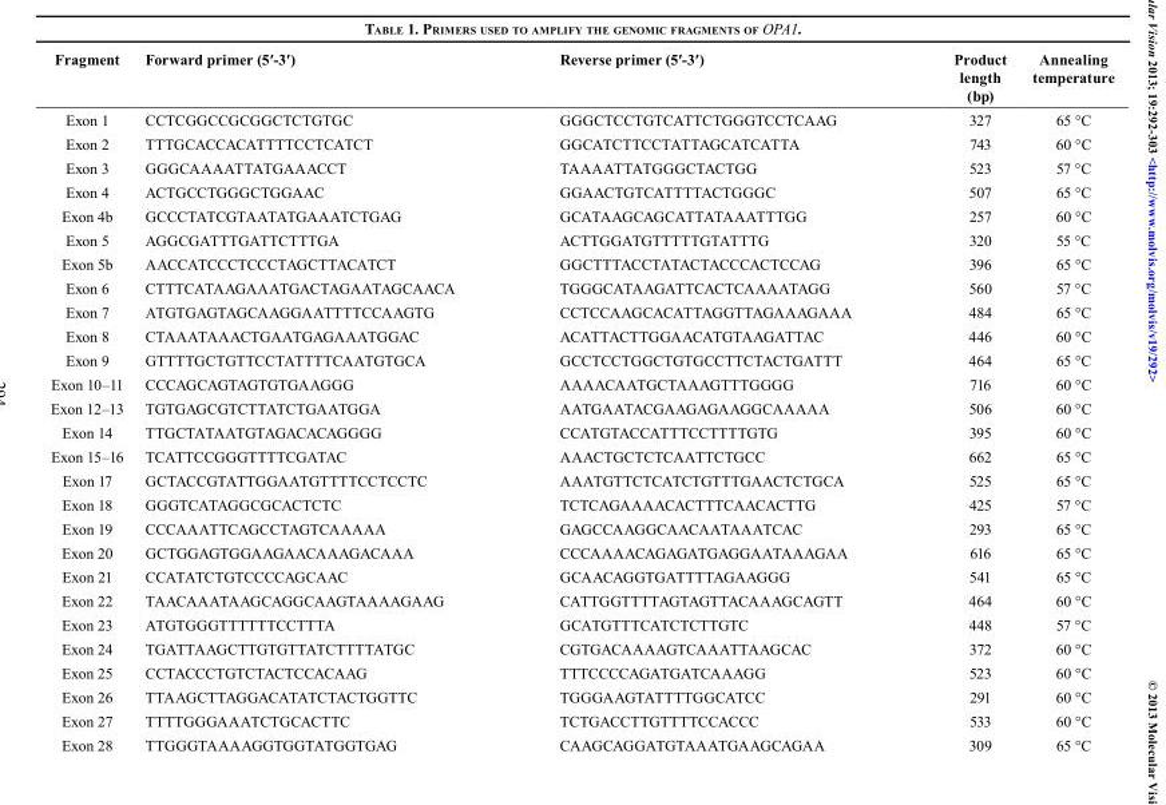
<table><thead><tr><td>Fragment</td><td>Forward primer (5′-3′)</td><td>Reverse primer (5′-3′)</td><td>Product length (bp)</td><td>Annealing temperature</td></tr></thead><tbody><tr><td>Exon 1</td><td>CCTCGGCCGCGGCTCTGTGC</td><td>GGGCTCCTGTCATTCTGGGTCCTCAAG</td><td>327</td><td>65 °C</td></tr><tr><td>Exon 2</td><td>TTTGCACCACATTTTCCTCATCT</td><td>GGCATCTTCCTATTAGCATCATTA</td><td>743</td><td>60 °C</td></tr><tr><td>Exon 3</td><td>GGGCAAAATTATGAAACCT</td><td>TAAAATTATGGGCTACTGG</td><td>523</td><td>57 °C</td></tr><tr><td>Exon 4</td><td>ACTGCCTGGGCTGGAAC</td><td>GGAACTGTCATTTTACTGGGC</td><td>507</td><td>65 °C</td></tr><tr><td>Exon 4b</td><td>GCCCTATCGTAATATGAAATCTGAG</td><td>GCATAAGCAGCATTATAAATTTGG</td><td>257</td><td>60 °C</td></tr><tr><td>Exon 5</td><td>AGGCGATTTGATTCTTTGA</td><td>ACTTGGATGTTTTTGTATTTG</td><td>320</td><td>55 °C</td></tr><tr><td>Exon 5b</td><td>AACCATCCCTCCCTAGCTTACATCT</td><td>GGCTTTACCTATACTACCCACTCCAG</td><td>396</td><td>65 °C</td></tr><tr><td>Exon 6</td><td>CTTTCATAAGAAATGACTAGAATAGCAACA</td><td>TGGGCATAAGATTCACTCAAAATAGG</td><td>560</td><td>57 °C</td></tr><tr><td>Exon 7</td><td>ATGTGAGTAGCAAGGAATTTTCCAAGTG</td><td>CCTCCAAGCACATTAGGTTAGAAAGAAA</td><td>484</td><td>65 °C</td></tr><tr><td>Exon 8</td><td>CTAAATAAACTGAATGAGAAATGGAC</td><td>ACATTACTTGGAACATGTAAGATTAC</td><td>446</td><td>60 °C</td></tr><tr><td>Exon 9</td><td>GTTTTGCTGTTCCTATTTTCAATGTGCA</td><td>GCCTCCTGGCTGTGCCTTCTACTGATTT</td><td>464</td><td>65 °C</td></tr><tr><td>Exon 10–11</td><td>CCCAGCAGTAGTGTGAAGGG</td><td>AAAACAATGCTAAAGTTTGGGG</td><td>716</td><td>60 °C</td></tr><tr><td>Exon 12–13</td><td>TGTGAGCGTCTTATCTGAATGGA</td><td>AATGAATACGAAGAGAAGGCAAAAA</td><td>506</td><td>60 °C</td></tr><tr><td>Exon 14</td><td>TTGCTATAATGTAGACACAGGGG</td><td>CCATGTACCATTTCCTTTTGTG</td><td>395</td><td>60 °C</td></tr><tr><td>Exon 15–16</td><td>TCATTCCGGGTTTTCGATAC</td><td>AAACTGCTCTCAATTCTGCC</td><td>662</td><td>65 °C</td></tr><tr><td>Exon 17</td><td>GCTACCGTATTGGAATGTTTTCCTCCTC</td><td>AAATGTTCTCATCTGTTTGAACTCTGCA</td><td>525</td><td>65 °C</td></tr><tr><td>Exon 18</td><td>GGGTCATAGGCGCACTCTC</td><td>TCTCAGAAAACACTTTCAACACTTG</td><td>425</td><td>57 °C</td></tr><tr><td>Exon 19</td><td>CCCAAATTCAGCCTAGTCAAAAA</td><td>GAGCCAAGGCAACAATAAATCAC</td><td>293</td><td>65 °C</td></tr><tr><td>Exon 20</td><td>GCTGGAGTGGAAGAACAAAGACAAA</td><td>CCCAAAACAGAGATGAGGAATAAAGAA</td><td>616</td><td>65 °C</td></tr><tr><td>Exon 21</td><td>CCATATCTGTCCCCAGCAAC</td><td>GCAACAGGTGATTTTAGAAGGG</td><td>541</td><td>65 °C</td></tr><tr><td>Exon 22</td><td>TAACAAATAAGCAGGCAAGTAAAAGAAG</td><td>CATTGGTTTTAGTAGTTACAAAGCAGTT</td><td>464</td><td>60 °C</td></tr><tr><td>Exon 23</td><td>ATGTGGGTTTTTTCCTTTA</td><td>GCATGTTTCATCTCTTGTC</td><td>448</td><td>57 °C</td></tr><tr><td>Exon 24</td><td>TGATTAAGCTTGTGTTATCTTTTATGC</td><td>CGTGACAAAAGTCAAATTAAGCAC</td><td>372</td><td>60 °C</td></tr><tr><td>Exon 25</td><td>CCTACCCTGTCTACTCCACAAG</td><td>TTTCCCCAGATGATCAAAGG</td><td>523</td><td>60 °C</td></tr><tr><td>Exon 26</td><td>TTAAGCTTAGGACATATCTACTGGTTC</td><td>TGGGAAGTATTTTGGCATCC</td><td>291</td><td>60 °C</td></tr><tr><td>Exon 27</td><td>TTTTGGGAAATCTGCACTTC</td><td>TCTGACCTTGTTTTCCACCC</td><td>533</td><td>60 °C</td></tr><tr><td>Exon 28</td><td>TTGGGTAAAAGGTGGTATGGTGAG</td><td>CAAGCAGGATGTAAATGAAGCAGAA</td><td>309</td><td>65 °C</td></tr></tbody></table>